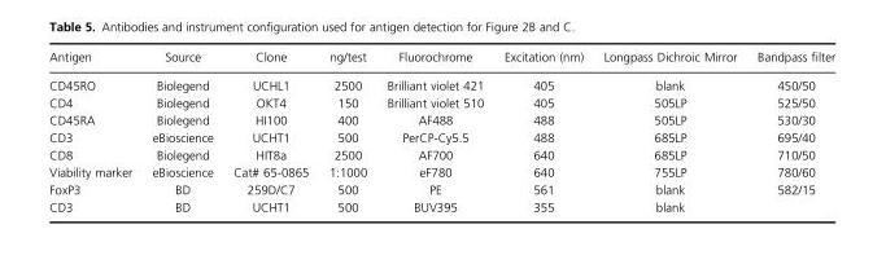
<table><thead><tr><td>Antigen</td><td>Source</td><td>Clone</td><td>ng/test</td><td>Fluorochrome</td><td>Excitation (nm)</td><td>Longpass Dichroic Mirror</td><td>Bandpass filter</td></tr></thead><tbody><tr><td>CD45RO</td><td>Biolegend</td><td>UCHL1</td><td>2500</td><td>Brilliant violet 421</td><td>405</td><td>blank</td><td>450/50</td></tr><tr><td>CD4</td><td>Biolegend</td><td>OKT4</td><td>150</td><td>Brilliant violet 510</td><td>405</td><td>505LP</td><td>525/50</td></tr><tr><td>CD45RA</td><td>Biolegend</td><td>HI100</td><td>400</td><td>AF488</td><td>488</td><td>505LP</td><td>530/30</td></tr><tr><td>CD3</td><td>eBioscience</td><td>UCHT1</td><td>500</td><td>PerCP-Cy5.5</td><td>488</td><td>685LP</td><td>695/40</td></tr><tr><td>CD8</td><td>Biolegend</td><td>HIT8a</td><td>2500</td><td>AF700</td><td>640</td><td>685LP</td><td>710/50</td></tr><tr><td>Viability marker</td><td>eBioscience</td><td>Cat# 65-0865</td><td>1:1000</td><td>eF780</td><td>640</td><td>755LP</td><td>780/60</td></tr><tr><td>FoxP3</td><td>BD</td><td>259D/C7</td><td>500</td><td>PE</td><td>561</td><td>blank</td><td>582/15</td></tr><tr><td>CD3</td><td>BD</td><td>UCHT1</td><td>500</td><td>BUV395</td><td>355</td><td>blank</td><td></td></tr></tbody></table>